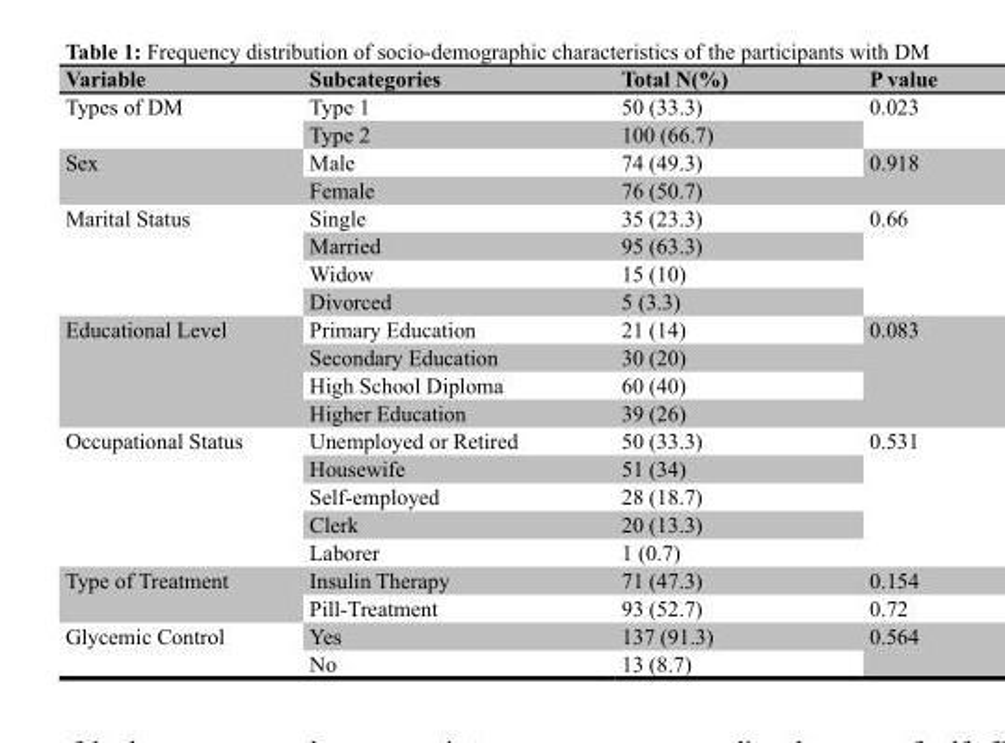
<table><thead><tr><td>Variable</td><td>Subcategories</td><td>Total N(%)</td><td>P value</td></tr></thead><tbody><tr><td rowspan="2">Types of DM</td><td>Type 1</td><td>50 (33.3)</td><td rowspan="2">0.023</td></tr><tr><td>Type 2</td><td>100 (66.7)</td></tr><tr><td rowspan="2">Sex</td><td>Male</td><td>74 (49.3)</td><td rowspan="2">0.918</td></tr><tr><td>Female</td><td>76 (50.7)</td></tr><tr><td rowspan="4">Marital Status</td><td>Single</td><td>35 (23.3)</td><td rowspan="4">0.66</td></tr><tr><td>Married</td><td>95 (63.3)</td></tr><tr><td>Widow</td><td>15 (10)</td></tr><tr><td>Divorced</td><td>5 (3.3)</td></tr><tr><td rowspan="4">Educational Level</td><td>Primary Education</td><td>21 (14)</td><td rowspan="4">0.083</td></tr><tr><td>Secondary Education</td><td>30 (20)</td></tr><tr><td>High School Diploma</td><td>60 (40)</td></tr><tr><td>Higher Education</td><td>39 (26)</td></tr><tr><td rowspan="5">Occupational Status</td><td>Unemployed or Retired</td><td>50 (33.3)</td><td rowspan="5">0.531</td></tr><tr><td>Housewife</td><td>51 (34)</td></tr><tr><td>Self-employed</td><td>28 (18.7)</td></tr><tr><td>Clerk</td><td>20 (13.3)</td></tr><tr><td>Laborer</td><td>1 (0.7)</td></tr><tr><td rowspan="2">Type of Treatment</td><td>Insulin Therapy</td><td>71 (47.3)</td><td>0.154</td></tr><tr><td>Pill-Treatment</td><td>93 (52.7)</td><td>0.72</td></tr><tr><td rowspan="2">Glycemic Control</td><td>Yes</td><td>137 (91.3)</td><td rowspan="2">0.564</td></tr><tr><td>No</td><td>13 (8.7)</td></tr></tbody></table>